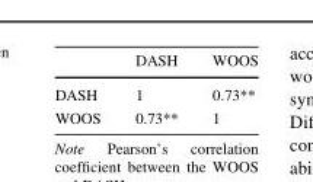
<table><thead><tr><td></td><td>DASH</td><td>WOOS</td></tr></thead><tbody><tr><td>DASH</td><td>1</td><td>0.73**</td></tr><tr><td>WOOS</td><td>0.73**</td><td>1</td></tr></tbody></table>